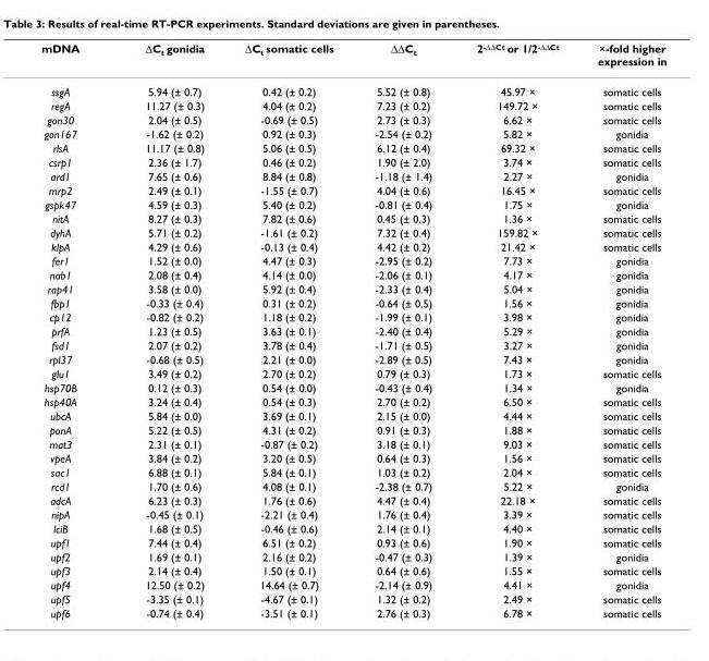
<table><thead><tr><td>mDNA</td><td>ΔC<sub>t</sub> gonidia</td><td>ΔC<sub>t</sub> somatic cells</td><td>ΔΔC<sub>t</sub></td><td>2<sup>-ΔΔCt</sup> or 1/2<sup>-ΔΔCt</sup></td><td>×-fold higher expression in</td></tr></thead><tbody><tr><td>ssgA</td><td>5.94 (± 0.7)</td><td>0.42 (± 0.2)</td><td>5.52 (± 0.8)</td><td>45.97 ×</td><td>somatic cells</td></tr><tr><td>regA</td><td>11.27 (± 0.3)</td><td>4.04 (± 0.2)</td><td>7.23 (± 0.2)</td><td>149.72 ×</td><td>somatic cells</td></tr><tr><td>gon30</td><td>2.04 (± 0.5)</td><td>-0.69 (± 0.5)</td><td>2.73 (± 0.3)</td><td>6.62 ×</td><td>somatic cells</td></tr><tr><td>gon167</td><td>-1.62 (± 0.2)</td><td>0.92 (± 0.3)</td><td>-2.54 (± 0.2)</td><td>5.82 ×</td><td>gonidia</td></tr><tr><td>rlsA</td><td>11.17 (± 0.8)</td><td>5.06 (± 0.5)</td><td>6.12 (± 0.4)</td><td>69.32 ×</td><td>somatic cells</td></tr><tr><td>csrp1</td><td>2.36 (± 1.7)</td><td>0.46 (± 0.2)</td><td>1.90 (± 2.0)</td><td>3.74 ×</td><td>somatic cells</td></tr><tr><td>ard1</td><td>7.65 (± 0.6)</td><td>8.84 (± 0.8)</td><td>-1.18 (± 1.4)</td><td>2.27 ×</td><td>gonidia</td></tr><tr><td>mrp2</td><td>2.49 (± 0.1)</td><td>-1.55 (± 0.7)</td><td>4.04 (± 0.6)</td><td>16.45 ×</td><td>somatic cells</td></tr><tr><td>gspk47</td><td>4.59 (± 0.3)</td><td>5.40 (± 0.2)</td><td>-0.81 (± 0.4)</td><td>1.75 ×</td><td>gonidia</td></tr><tr><td>nitA</td><td>8.27 (± 0.3)</td><td>7.82 (± 0.6)</td><td>0.45 (± 0.3)</td><td>1.36 ×</td><td>somatic cells</td></tr><tr><td>dyhA</td><td>5.71 (± 0.2)</td><td>-1.61 (± 0.2)</td><td>7.32 (± 0.4)</td><td>159.82 ×</td><td>somatic cells</td></tr><tr><td>klpA</td><td>4.29 (± 0.6)</td><td>-0.13 (± 0.4)</td><td>4.42 (± 0.2)</td><td>21.42 ×</td><td>somatic cells</td></tr><tr><td>fer1</td><td>1.52 (± 0.0)</td><td>4.47 (± 0.3)</td><td>-2.95 (± 0.2)</td><td>7.73 ×</td><td>gonidia</td></tr><tr><td>nab1</td><td>2.08 (± 0.4)</td><td>4.14 (± 0.0)</td><td>-2.06 (± 0.1)</td><td>4.17 ×</td><td>gonidia</td></tr><tr><td>rap41</td><td>3.58 (± 0.0)</td><td>5.92 (± 0.4)</td><td>-2.33 (± 0.4)</td><td>5.04 ×</td><td>gonidia</td></tr><tr><td>fbp1</td><td>-0.33 (± 0.4)</td><td>0.31 (± 0.2)</td><td>-0.64 (± 0.5)</td><td>1.56 ×</td><td>gonidia</td></tr><tr><td>cp12</td><td>-0.82 (± 0.2)</td><td>1.18 (± 0.2)</td><td>-1.99 (± 0.1)</td><td>3.98 ×</td><td>gonidia</td></tr><tr><td>prfA</td><td>1.23 (± 0.5)</td><td>3.63 (± 0.1)</td><td>-2.40 (± 0.4)</td><td>5.29 ×</td><td>gonidia</td></tr><tr><td>fsd1</td><td>2.07 (± 0.2)</td><td>3.78 (± 0.4)</td><td>-1.71 (± 0.5)</td><td>3.27 ×</td><td>gonidia</td></tr><tr><td>rpl37</td><td>-0.68 (± 0.5)</td><td>2.21 (± 0.0)</td><td>-2.89 (± 0.5)</td><td>7.43 ×</td><td>gonidia</td></tr><tr><td>glu1</td><td>3.49 (± 0.2)</td><td>2.70 (± 0.2)</td><td>0.79 (± 0.3)</td><td>1.73 ×</td><td>somatic cells</td></tr><tr><td>hsp70B</td><td>0.12 (± 0.3)</td><td>0.54 (± 0.0)</td><td>-0.43 (± 0.4)</td><td>1.34 ×</td><td>gonidia</td></tr><tr><td>hsp40A</td><td>3.24 (± 0.4)</td><td>0.54 (± 0.3)</td><td>2.70 (± 0.2)</td><td>6.50 ×</td><td>somatic cells</td></tr><tr><td>ubcA</td><td>5.84 (± 0.0)</td><td>3.69 (± 0.1)</td><td>2.15 (± 0.0)</td><td>4.44 ×</td><td>somatic cells</td></tr><tr><td>ponA</td><td>5.22 (± 0.5)</td><td>4.31 (± 0.2)</td><td>0.91 (± 0.3)</td><td>1.88 ×</td><td>somatic cells</td></tr><tr><td>mat3</td><td>2.31 (± 0.1)</td><td>-0.87 (± 0.2)</td><td>3.18 (± 0.1)</td><td>9.03 ×</td><td>somatic cells</td></tr><tr><td>vpeA</td><td>3.84 (± 0.2)</td><td>3.20 (± 0.5)</td><td>0.64 (± 0.3)</td><td>1.56 ×</td><td>somatic cells</td></tr><tr><td>sac1</td><td>6.88 (± 0.1)</td><td>5.84 (± 0.1)</td><td>1.03 (± 0.2)</td><td>2.04 ×</td><td>somatic cells</td></tr><tr><td>rcd1</td><td>1.70 (± 0.6)</td><td>4.08 (± 0.1)</td><td>-2.38 (± 0.7)</td><td>5.22 ×</td><td>gonidia</td></tr><tr><td>adcA</td><td>6.23 (± 0.3)</td><td>1.76 (± 0.6)</td><td>4.47 (± 0.4)</td><td>22.18 ×</td><td>somatic cells</td></tr><tr><td>nipA</td><td>-0.45 (± 0.1)</td><td>-2.21 (± 0.4)</td><td>1.76 (± 0.4)</td><td>3.39 ×</td><td>somatic cells</td></tr><tr><td>lciB</td><td>1.68 (± 0.5)</td><td>-0.46 (± 0.6)</td><td>2.14 (± 0.1)</td><td>4.40 ×</td><td>somatic cells</td></tr><tr><td>upf1</td><td>7.44 (± 0.4)</td><td>6.51 (± 0.2)</td><td>0.93 (± 0.6)</td><td>1.90 ×</td><td>somatic cells</td></tr><tr><td>upf2</td><td>1.69 (± 0.1)</td><td>2.16 (± 0.2)</td><td>-0.47 (± 0.3)</td><td>1.39 ×</td><td>gonidia</td></tr><tr><td>upf3</td><td>2.14 (± 0.4)</td><td>1.50 (± 0.1)</td><td>0.64 (± 0.6)</td><td>1.55 ×</td><td>somatic cells</td></tr><tr><td>upf4</td><td>12.50 (± 0.2)</td><td>14.64 (± 0.7)</td><td>-2.14 (± 0.9)</td><td>4.41 ×</td><td>gonidia</td></tr><tr><td>upf5</td><td>-3.35 (± 0.1)</td><td>-4.67 (± 0.1)</td><td>1.32 (± 0.2)</td><td>2.49 ×</td><td>somatic cells</td></tr><tr><td>upf6</td><td>-0.74 (± 0.4)</td><td>-3.51 (± 0.1)</td><td>2.76 (± 0.3)</td><td>6.78 ×</td><td>somatic cells</td></tr></tbody></table>